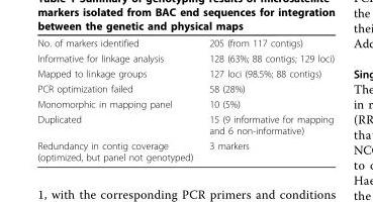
<table><tbody><tr><td>No. of markers identified</td><td>205 (from 117 contigs)</td></tr><tr><td>Informative for linkage analysis</td><td>128 (63%; 88 contigs; 129 loci)</td></tr><tr><td>Mapped to linkage groups</td><td>127 loci (98.5%; 88 contigs)</td></tr><tr><td>PCR optimization failed</td><td>58 (28%)</td></tr><tr><td>Monomorphic in mapping panel</td><td>10 (5%)</td></tr><tr><td>Duplicated</td><td>15 (9 informative for mapping and 6 non-informative)</td></tr><tr><td>Redundancy in contig coverage (optimized, but panel not genotyped)</td><td>3 markers</td></tr></tbody></table>